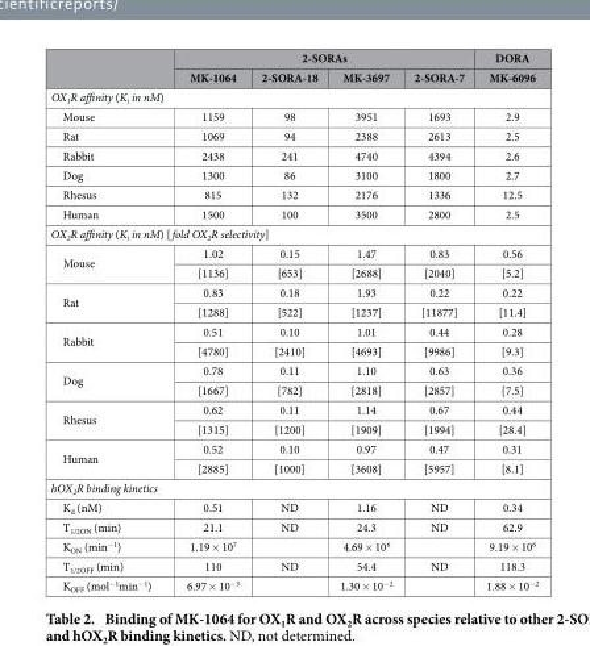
<table><thead><tr><td rowspan="2"></td><td colspan="4">2-SORAs</td><td rowspan="2">DORA MK-6096</td></tr><tr><td>MK-1064</td><td>2-SORA-18</td><td>MK-3697</td><td>2-SORA-7</td></tr></thead><tbody><tr><td colspan="6">OX<sub>1</sub>R affinity (K<sub>i</sub> in nM)</td></tr><tr><td>Mouse</td><td>1159</td><td>98</td><td>3951</td><td>1693</td><td>2.9</td></tr><tr><td>Rat</td><td>1069</td><td>94</td><td>2388</td><td>2613</td><td>2.5</td></tr><tr><td>Rabbit</td><td>2438</td><td>241</td><td>4740</td><td>4394</td><td>2.6</td></tr><tr><td>Dog</td><td>1300</td><td>86</td><td>3100</td><td>1800</td><td>2.7</td></tr><tr><td>Rhesus</td><td>815</td><td>132</td><td>2176</td><td>1336</td><td>12.5</td></tr><tr><td>Human</td><td>1500</td><td>100</td><td>3500</td><td>2800</td><td>2.5</td></tr><tr><td colspan="6">OX<sub>2</sub>R affinity (K<sub>i</sub> in nM) [ fold OX<sub>2</sub>R selectivity]</td></tr><tr><td rowspan="2">Mouse</td><td>1.02</td><td>0.15</td><td>1.47</td><td>0.83</td><td>0.56</td></tr><tr><td>[1136]</td><td>[653]</td><td>[2688]</td><td>[2040]</td><td>[5.2]</td></tr><tr><td rowspan="2">Rat</td><td>0.83</td><td>0.18</td><td>1.93</td><td>0.22</td><td>0.22</td></tr><tr><td>[1288]</td><td>[522]</td><td>[1237]</td><td>[11877]</td><td>[11.4]</td></tr><tr><td rowspan="2">Rabbit</td><td>0.51</td><td>0.10</td><td>1.01</td><td>0.44</td><td>0.28</td></tr><tr><td>[4780]</td><td>[2410]</td><td>[4693]</td><td>[9986]</td><td>[9.3]</td></tr><tr><td rowspan="2">Dog</td><td>0.78</td><td>0.11</td><td>1.10</td><td>0.63</td><td>0.36</td></tr><tr><td>[1667]</td><td>[782]</td><td>[2818]</td><td>[2857]</td><td>[7.5]</td></tr><tr><td rowspan="2">Rhesus</td><td>0.62</td><td>0.11</td><td>1.14</td><td>0.67</td><td>0.44</td></tr><tr><td>[1315]</td><td>[1200]</td><td>[1909]</td><td>[1994]</td><td>[28.4]</td></tr><tr><td rowspan="2">Human</td><td>0.52</td><td>0.10</td><td>0.97</td><td>0.47</td><td>0.31</td></tr><tr><td>[2885]</td><td>[1000]</td><td>[3608]</td><td>[5957]</td><td>[8.1]</td></tr><tr><td colspan="6">hOX<sub>2</sub>R binding kinetics</td></tr><tr><td>K<sub>d</sub> (nM)</td><td>0.51</td><td>ND</td><td>1.16</td><td>ND</td><td>0.34</td></tr><tr><td>T<sub>1/2ON</sub> (min)</td><td>21.1</td><td>ND</td><td>24.3</td><td>ND</td><td>62.9</td></tr><tr><td>K<sub>ON</sub> (min<sup>−1</sup>)</td><td>1.19 × 10<sup>7</sup></td><td></td><td>4.69 × 10<sup>6</sup></td><td></td><td>9.19 × 10<sup>6</sup></td></tr><tr><td>T<sub>1/2OFF</sub> (min)</td><td>110</td><td>ND</td><td>54.4</td><td>ND</td><td>118.3</td></tr><tr><td>K<sub>OFF</sub> (mol<sup>−1</sup>min<sup>−1</sup>)</td><td>6.97 × 10<sup>−3</sup></td><td></td><td>1.30 × 10<sup>−2</sup></td><td></td><td>1.88 × 10<sup>−2</sup></td></tr></tbody></table>